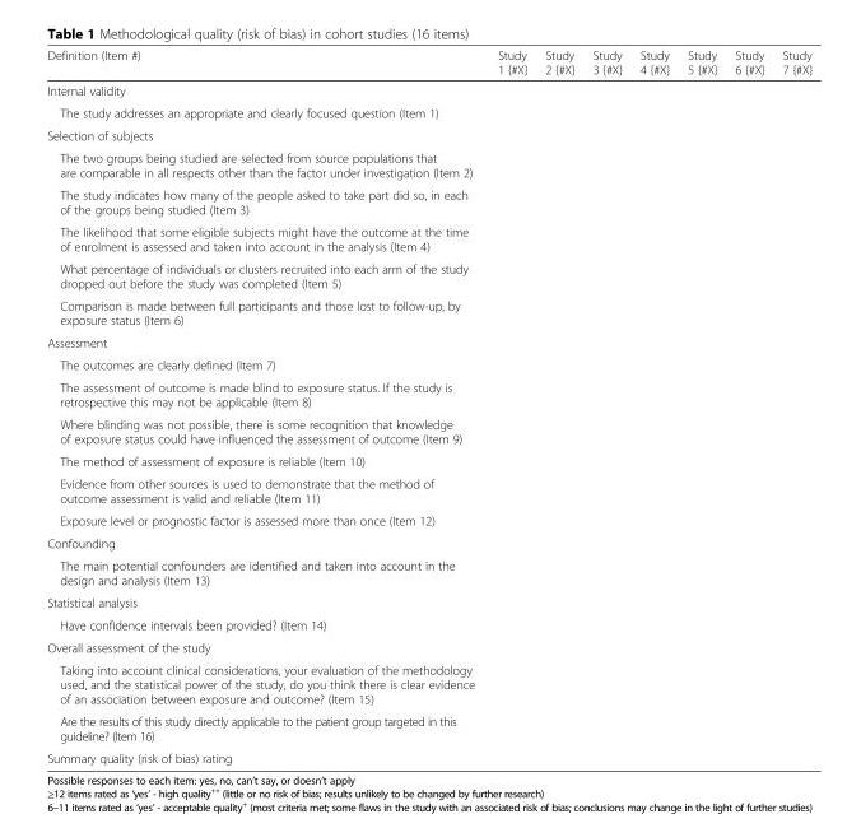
<table><thead><tr><td>Definition (Item #)</td><td>Study 1 {#X}</td><td>Study 2 {#X}</td><td>Study 3 {#X}</td><td>Study 4 {#X}</td><td>Study 5 {#X}</td><td>Study 6 {#X}</td><td>Study 7 {#X}</td></tr></thead><tbody><tr><td colspan="8">Internal validity</td></tr><tr><td colspan="8">The study addresses an appropriate and clearly focused question (Item 1)</td></tr><tr><td colspan="8">Selection of subjects</td></tr><tr><td colspan="8">The two groups being studied are selected from source populations that are comparable in all respects other than the factor under investigation (Item 2)</td></tr><tr><td colspan="8">The study indicates how many of the people asked to take part did so, in each of the groups being studied (Item 3)</td></tr><tr><td colspan="8">The likelihood that some eligible subjects might have the outcome at the time of enrolment is assessed and taken into account in the analysis (Item 4)</td></tr><tr><td colspan="8">What percentage of individuals or clusters recruited into each arm of the study dropped out before the study was completed (Item 5)</td></tr><tr><td colspan="8">Comparison is made between full participants and those lost to follow-up, by exposure status (Item 6)</td></tr><tr><td colspan="8">Assessment</td></tr><tr><td colspan="8">The outcomes are clearly defined (Item 7)</td></tr><tr><td colspan="8">The assessment of outcome is made blind to exposure status. If the study is retrospective this may not be applicable (Item 8)</td></tr><tr><td colspan="8">Where blinding was not possible, there is some recognition that knowledge of exposure status could have influenced the assessment of outcome (Item 9)</td></tr><tr><td colspan="8">The method of assessment of exposure is reliable (Item 10)</td></tr><tr><td colspan="8">Evidence from other sources is used to demonstrate that the method of outcome assessment is valid and reliable (Item 11)</td></tr><tr><td colspan="8">Exposure level or prognostic factor is assessed more than once (Item 12)</td></tr><tr><td colspan="8">Confounding</td></tr><tr><td colspan="8">The main potential confounders are identified and taken into account in the design and analysis (Item 13)</td></tr><tr><td colspan="8">Statistical analysis</td></tr><tr><td colspan="8">Have confidence intervals been provided? (Item 14)</td></tr><tr><td colspan="8">Overall assessment of the study</td></tr><tr><td colspan="8">Taking into account clinical considerations, your evaluation of the methodology used, and the statistical power of the study, do you think there is clear evidence of an association between exposure and outcome? (Item 15)</td></tr><tr><td colspan="8">Are the results of this study directly applicable to the patient group targeted in this guideline? (Item 16)</td></tr><tr><td>Summary quality (risk of bias) rating</td><td></td><td></td><td></td><td></td><td></td><td></td><td></td></tr></tbody></table>